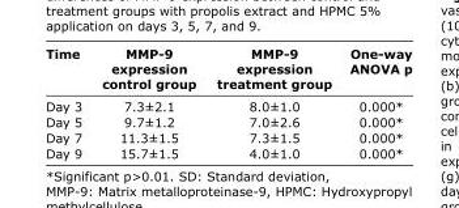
<table><thead><tr><td>Time</td><td>MMP-9 expression control group</td><td>MMP-9 expression treatment group</td><td>One-way ANOVA p</td></tr></thead><tbody><tr><td>Day 3</td><td>7.3±2.1</td><td>8.0±1.0</td><td>0.000*</td></tr><tr><td>Day 5</td><td>9.7±1.2</td><td>7.0±2.6</td><td>0.000*</td></tr><tr><td>Day 7</td><td>11.3±1.5</td><td>7.3±1.5</td><td>0.000*</td></tr><tr><td>Day 9</td><td>15.7±1.5</td><td>4.0±1.0</td><td>0.000*</td></tr></tbody></table>